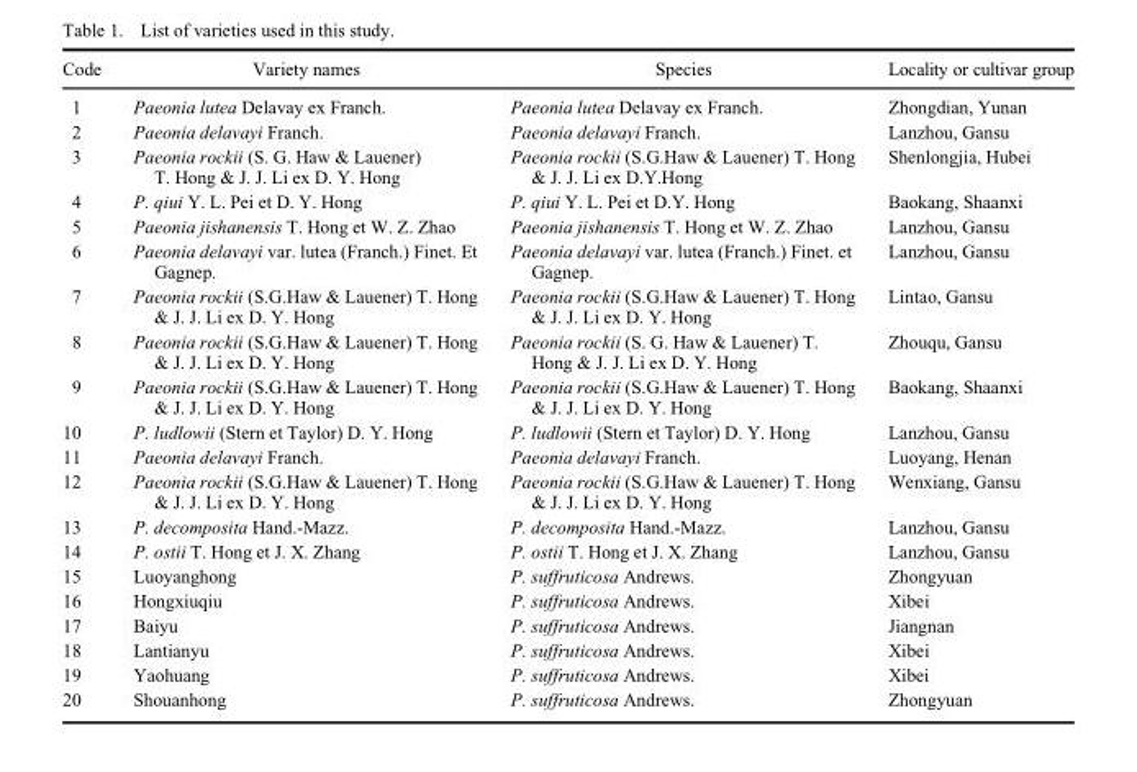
<table><thead><tr><td>Code</td><td>Variety names</td><td>Species</td><td>Locality or cultivar group</td></tr></thead><tbody><tr><td>1</td><td>Paeonia lutea Delavay ex Franch.</td><td>Paeonia lutea Delavay ex Franch.</td><td>Zhongdian, Yunan</td></tr><tr><td>2</td><td>Paeonia delavayi Franch.</td><td>Paeonia delavayi Franch.</td><td>Lanzhou, Gansu</td></tr><tr><td>3</td><td>Paeonia rockii (S. G. Haw &amp; Lauener) T. Hong &amp; J. J. Li ex D. Y. Hong</td><td>Paeonia rockii (S.G.Haw &amp; Lauener) T. Hong &amp; J. J. Li ex D.Y.Hong</td><td>Shenlongjia, Hubei</td></tr><tr><td>4</td><td>P. qiui Y. L. Pei et D. Y. Hong</td><td>P. qiui Y. L. Pei et D.Y. Hong</td><td>Baokang, Shaanxi</td></tr><tr><td>5</td><td>Paeonia jishanensis T. Hong et W. Z. Zhao</td><td>Paeonia jishanensis T. Hong et W. Z. Zhao</td><td>Lanzhou, Gansu</td></tr><tr><td>6</td><td>Paeonia delavayi var. lutea (Franch.) Finet. Et Gagnep.</td><td>Paeonia delavayi var. lutea (Franch.) Finet. et Gagnep.</td><td>Lanzhou, Gansu</td></tr><tr><td>7</td><td>Paeonia rockii (S.G.Haw &amp; Lauener) T. Hong &amp; J. J. Li ex D. Y. Hong</td><td>Paeonia rockii (S.G.Haw &amp; Lauener) T. Hong &amp; J. J. Li ex D. Y. Hong</td><td>Lintao, Gansu</td></tr><tr><td>8</td><td>Paeonia rockii (S.G.Haw &amp; Lauener) T. Hong &amp; J. J. Li ex D. Y. Hong</td><td>Paeonia rockii (S. G. Haw &amp; Lauener) T. Hong &amp; J. J. Li ex D. Y. Hong</td><td>Zhouqu, Gansu</td></tr><tr><td>9</td><td>Paeonia rockii (S.G.Haw &amp; Lauener) T. Hong &amp; J. J. Li ex D. Y. Hong</td><td>Paeonia rockii (S.G.Haw &amp; Lauener) T. Hong &amp; J. J. Li ex D. Y. Hong</td><td>Baokang, Shaanxi</td></tr><tr><td>10</td><td>P. ludlowii (Stern et Taylor) D. Y. Hong</td><td>P. ludlowii (Stern et Taylor) D. Y. Hong</td><td>Lanzhou, Gansu</td></tr><tr><td>11</td><td>Paeonia delavayi Franch.</td><td>Paeonia delavayi Franch.</td><td>Luoyang, Henan</td></tr><tr><td>12</td><td>Paeonia rockii (S.G.Haw &amp; Lauener) T. Hong &amp; J. J. Li ex D. Y. Hong</td><td>Paeonia rockii (S.G.Haw &amp; Lauener) T. Hong &amp; J. J. Li ex D. Y. Hong</td><td>Wenxiang, Gansu</td></tr><tr><td>13</td><td>P. decomposita Hand.-Mazz.</td><td>P. decomposita Hand.-Mazz.</td><td>Lanzhou, Gansu</td></tr><tr><td>14</td><td>P. ostii T. Hong et J. X. Zhang</td><td>P. ostii T. Hong et J. X. Zhang</td><td>Lanzhou, Gansu</td></tr><tr><td>15</td><td>Luoyanghong</td><td>P. suffruticosa Andrews.</td><td>Zhongyuan</td></tr><tr><td>16</td><td>Hongxiuqiu</td><td>P. suffruticosa Andrews.</td><td>Xibei</td></tr><tr><td>17</td><td>Baiyu</td><td>P. suffruticosa Andrews.</td><td>Jiangnan</td></tr><tr><td>18</td><td>Lantianyu</td><td>P. suffruticosa Andrews.</td><td>Xibei</td></tr><tr><td>19</td><td>Yaohuang</td><td>P. suffruticosa Andrews.</td><td>Xibei</td></tr><tr><td>20</td><td>Shouanhong</td><td>P. suffruticosa Andrews.</td><td>Zhongyuan</td></tr></tbody></table>